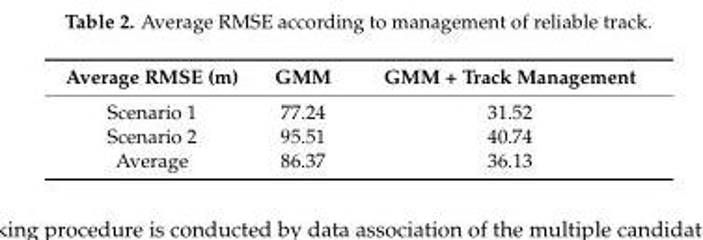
<table><thead><tr><td>Average RMSE (m)</td><td>GMM</td><td>GMM + Track Management</td></tr></thead><tbody><tr><td>Scenario 1</td><td>77.24</td><td>31.52</td></tr><tr><td>Scenario 2</td><td>95.51</td><td>40.74</td></tr><tr><td>Average</td><td>86.37</td><td>36.13</td></tr></tbody></table>